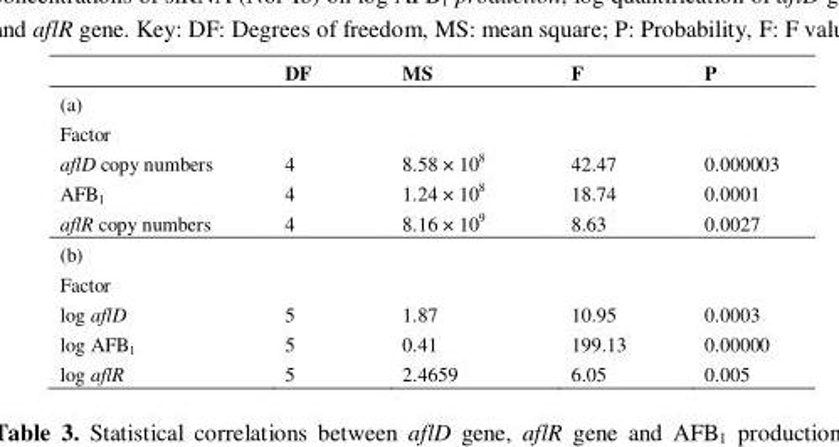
<table><thead><tr><td></td><td>DF</td><td>MS</td><td>F</td><td>P</td></tr></thead><tbody><tr><td colspan="5">(a)</td></tr><tr><td colspan="5">Factor</td></tr><tr><td>aflD copy numbers</td><td>4</td><td>8.58 × 10<sup>8</sup></td><td>42.47</td><td>0.000003</td></tr><tr><td>AFB<sub>1</sub></td><td>4</td><td>1.24 × 10<sup>8</sup></td><td>18.74</td><td>0.0001</td></tr><tr><td>aflR copy numbers</td><td>4</td><td>8.16 × 10<sup>9</sup></td><td>8.63</td><td>0.0027</td></tr><tr><td colspan="5">(b)</td></tr><tr><td colspan="5">Factor</td></tr><tr><td>log aflD</td><td>5</td><td>1.87</td><td>10.95</td><td>0.0003</td></tr><tr><td>log AFB<sub>1</sub></td><td>5</td><td>0.41</td><td>199.13</td><td>0.00000</td></tr><tr><td>log aflR</td><td>5</td><td>2.4659</td><td>6.05</td><td>0.005</td></tr></tbody></table>